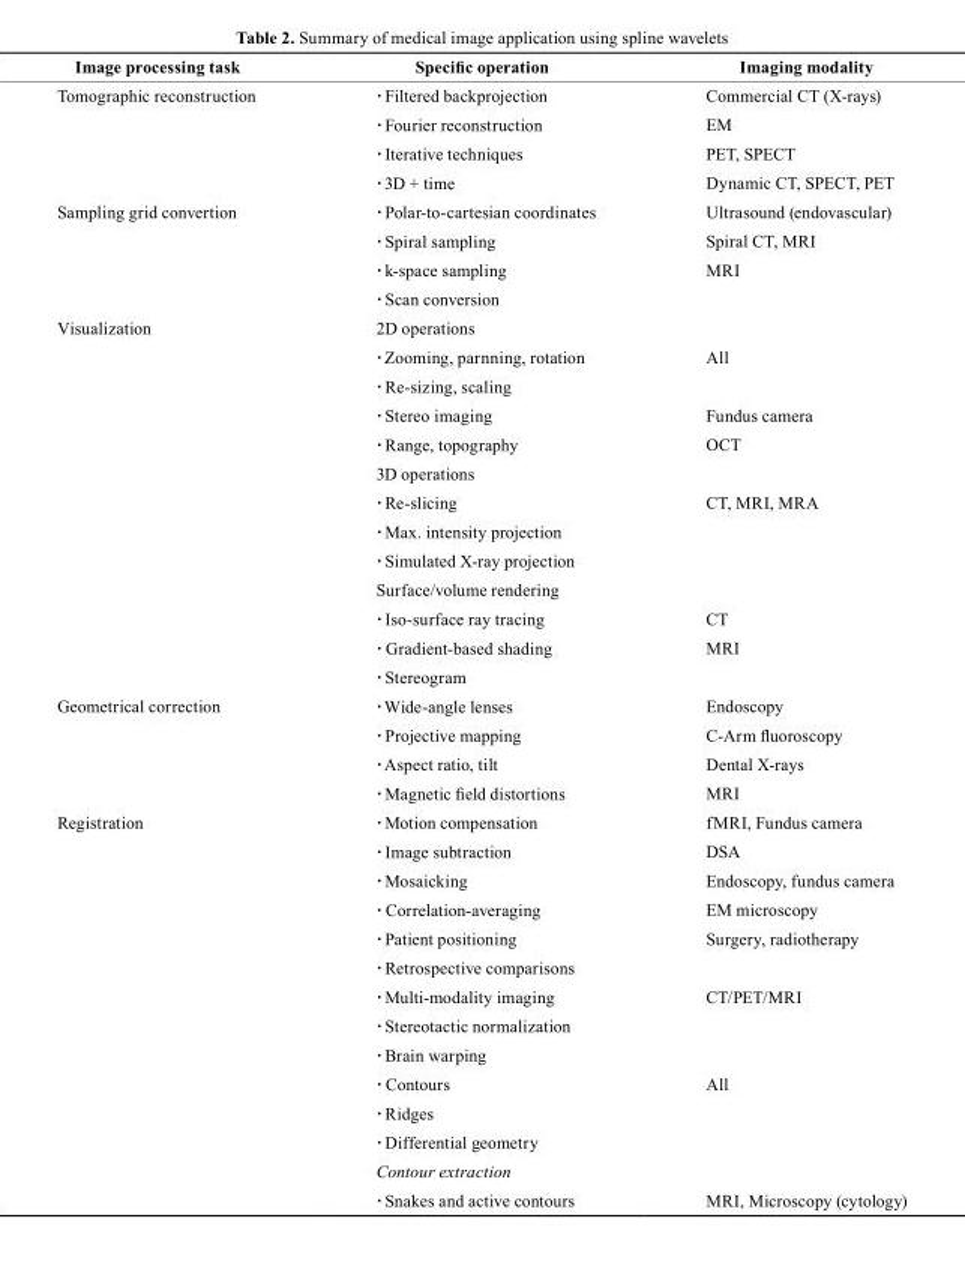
<table><thead><tr><td>Image processing task</td><td>Specific operation</td><td>Imaging modality</td></tr></thead><tbody><tr><td rowspan="4">Tomographic reconstruction</td><td>·Filtered backprojection</td><td>Commercial CT (X-rays)</td></tr><tr><td>·Fourier reconstruction</td><td>EM</td></tr><tr><td>·Iterative techniques</td><td>PET, SPECT</td></tr><tr><td>·3D + time</td><td>Dynamic CT, SPECT, PET</td></tr><tr><td rowspan="4">Sampling grid convertion</td><td>·Polar-to-cartesian coordinates</td><td>Ultrasound (endovascular)</td></tr><tr><td>·Spiral sampling</td><td>Spiral CT, MRI</td></tr><tr><td>·k-space sampling</td><td>MRI</td></tr><tr><td>·Scan conversion</td><td></td></tr><tr><td rowspan="13">Visualization</td><td>2D operations</td><td></td></tr><tr><td>·Zooming, parnning, rotation</td><td>All</td></tr><tr><td>·Re-sizing, scaling</td><td></td></tr><tr><td>·Stereo imaging</td><td>Fundus camera</td></tr><tr><td>·Range, topography</td><td>OCT</td></tr><tr><td>3D operations</td><td></td></tr><tr><td>·Re-slicing</td><td>CT, MRI, MRA</td></tr><tr><td>·Max. intensity projection</td><td></td></tr><tr><td>·Simulated X-ray projection</td><td></td></tr><tr><td>Surface/volume rendering</td><td></td></tr><tr><td>·Iso-surface ray tracing</td><td>CT</td></tr><tr><td>·Gradient-based shading</td><td>MRI</td></tr><tr><td>·Stereogram</td><td></td></tr><tr><td rowspan="4">Geometrical correction</td><td>·Wide-angle lenses</td><td>Endoscopy</td></tr><tr><td>·Projective mapping</td><td>C-Arm fluoroscopy</td></tr><tr><td>·Aspect ratio, tilt</td><td>Dental X-rays</td></tr><tr><td>·Magnetic field distortions</td><td>MRI</td></tr><tr><td rowspan="14">Registration</td><td>·Motion compensation</td><td>fMRI, Fundus camera</td></tr><tr><td>·Image subtraction</td><td>DSA</td></tr><tr><td>·Mosaicking</td><td>Endoscopy, fundus camera</td></tr><tr><td>·Correlation-averaging</td><td>EM microscopy</td></tr><tr><td>·Patient positioning</td><td>Surgery, radiotherapy</td></tr><tr><td>·Retrospective comparisons</td><td></td></tr><tr><td>·Multi-modality imaging</td><td>CT/PET/MRI</td></tr><tr><td>·Stereotactic normalization</td><td></td></tr><tr><td>·Brain warping</td><td></td></tr><tr><td>·Contours</td><td>All</td></tr><tr><td>·Ridges</td><td></td></tr><tr><td>·Differential geometry</td><td></td></tr><tr><td>Contour extraction</td><td></td></tr><tr><td>·Snakes and active contours</td><td>MRI, Microscopy (cytology)</td></tr></tbody></table>